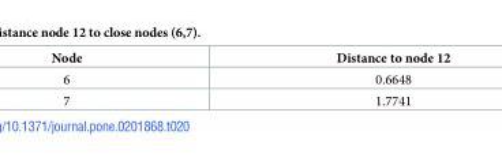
<table><thead><tr><td>Node</td><td>Distance to node 12</td></tr></thead><tbody><tr><td>6</td><td>0.6648</td></tr><tr><td>7</td><td>1.7741</td></tr></tbody></table>